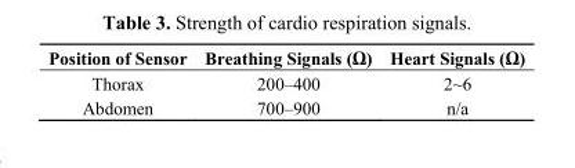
<table><thead><tr><td>Position of Sensor</td><td>Breathing Signals (Ω)</td><td>Heart Signals (Ω)</td></tr></thead><tbody><tr><td>Thorax</td><td>200–400</td><td>2~6</td></tr><tr><td>Abdomen</td><td>700–900</td><td>n/a</td></tr></tbody></table>